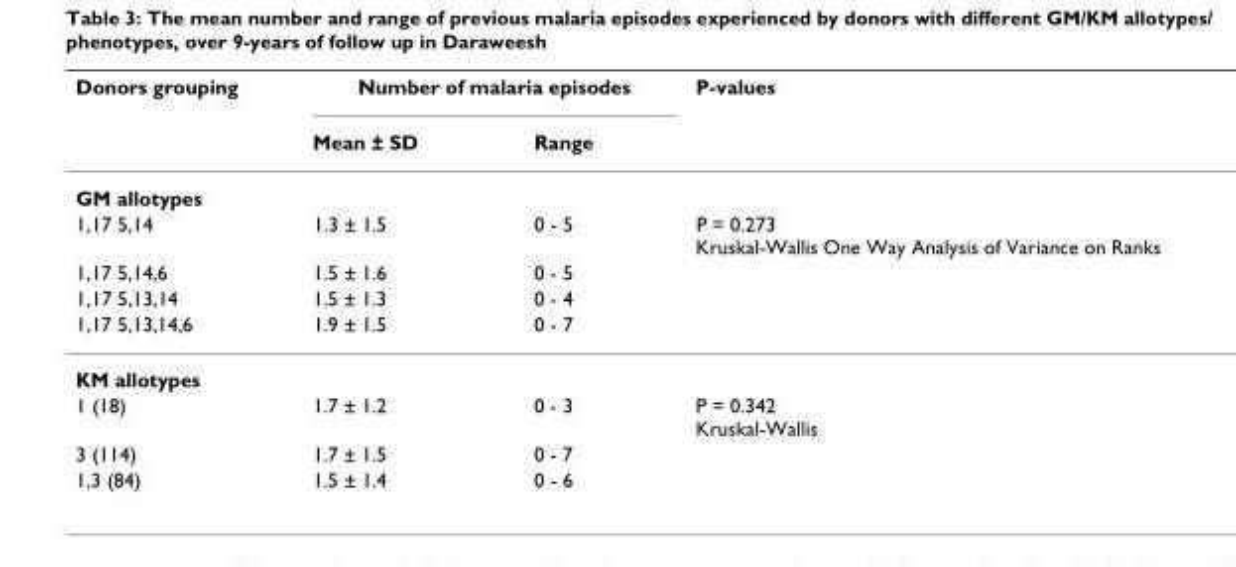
<table><thead><tr><td rowspan="2">Donors grouping</td><td colspan="2">Number of malaria episodes</td><td rowspan="2">P-values</td></tr><tr><td>Mean ± SD</td><td>Range</td></tr></thead><tbody><tr><td colspan="4">GM allotypes</td></tr><tr><td>1,17 5,14</td><td>1.3 ± 1.5</td><td>0 - 5</td><td>P = 0.273 Kruskal-Wallis One Way Analysis of Variance on Ranks</td></tr><tr><td>1,17 5,14,6</td><td>1.5 ± 1.6</td><td>0 - 5</td><td></td></tr><tr><td>1,17 5,13,14</td><td>1.5 ± 1.3</td><td>0 - 4</td><td></td></tr><tr><td>1,17 5,13,14,6</td><td>1.9 ± 1.5</td><td>0 - 7</td><td></td></tr><tr><td colspan="4">KM allotypes</td></tr><tr><td>1 (18)</td><td>1.7 ± 1.2</td><td>0 - 3</td><td>P = 0.342 Kruskal-Wallis</td></tr><tr><td>3 (114)</td><td>1.7 ± 1.5</td><td>0 - 7</td><td></td></tr><tr><td>1,3 (84)</td><td>1.5 ± 1.4</td><td>0 - 6</td><td></td></tr></tbody></table>